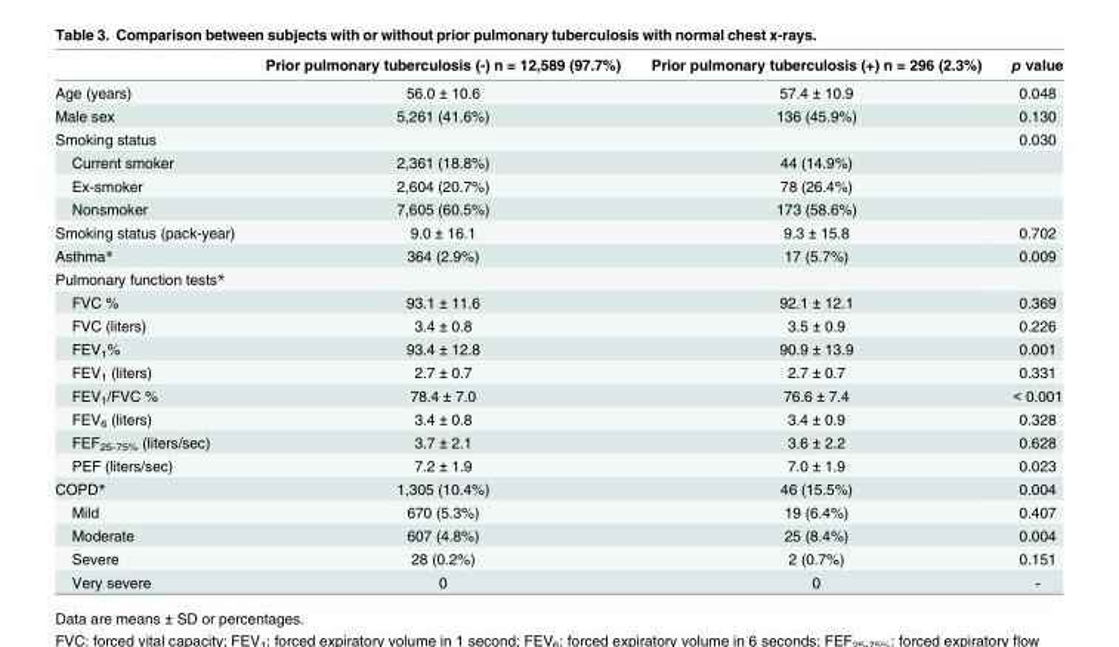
<table><thead><tr><td></td><td>Prior pulmonary tuberculosis (-) n = 12,589 (97.7%)</td><td>Prior pulmonary tuberculosis (+) n = 296 (2.3%)</td><td>p value</td></tr></thead><tbody><tr><td>Age (years)</td><td>56.0 ± 10.6</td><td>57.4 ± 10.9</td><td>0.048</td></tr><tr><td>Male sex</td><td>5,261 (41.6%)</td><td>136 (45.9%)</td><td>0.130</td></tr><tr><td>Smoking status</td><td></td><td></td><td>0.030</td></tr><tr><td>Current smoker</td><td>2,361 (18.8%)</td><td>44 (14.9%)</td><td></td></tr><tr><td>Ex-smoker</td><td>2,604 (20.7%)</td><td>78 (26.4%)</td><td></td></tr><tr><td>Nonsmoker</td><td>7,605 (60.5%)</td><td>173 (58.6%)</td><td></td></tr><tr><td>Smoking status (pack-year)</td><td>9.0 ± 16.1</td><td>9.3 ± 15.8</td><td>0.702</td></tr><tr><td>Asthma*</td><td>364 (2.9%)</td><td>17 (5.7%)</td><td>0.009</td></tr><tr><td colspan="4">Pulmonary function tests*</td></tr><tr><td>FVC %</td><td>93.1 ± 11.6</td><td>92.1 ± 12.1</td><td>0.369</td></tr><tr><td>FVC (liters)</td><td>3.4 ± 0.8</td><td>3.5 ± 0.9</td><td>0.226</td></tr><tr><td>FEV<sub>1</sub>%</td><td>93.4 ± 12.8</td><td>90.9 ± 13.9</td><td>0.001</td></tr><tr><td>FEV<sub>1</sub> (liters)</td><td>2.7 ± 0.7</td><td>2.7 ± 0.7</td><td>0.331</td></tr><tr><td>FEV<sub>1</sub>/FVC %</td><td>78.4 ± 7.0</td><td>76.6 ± 7.4</td><td>&lt; 0.001</td></tr><tr><td>FEV<sub>6</sub> (liters)</td><td>3.4 ± 0.8</td><td>3.4 ± 0.9</td><td>0.328</td></tr><tr><td>FEF<sub>25-75%</sub> (liters/sec)</td><td>3.7 ± 2.1</td><td>3.6 ± 2.2</td><td>0.628</td></tr><tr><td>PEF (liters/sec)</td><td>7.2 ± 1.9</td><td>7.0 ± 1.9</td><td>0.023</td></tr><tr><td>COPD*</td><td>1,305 (10.4%)</td><td>46 (15.5%)</td><td>0.004</td></tr><tr><td>Mild</td><td>670 (5.3%)</td><td>19 (6.4%)</td><td>0.407</td></tr><tr><td>Moderate</td><td>607 (4.8%)</td><td>25 (8.4%)</td><td>0.004</td></tr><tr><td>Severe</td><td>28 (0.2%)</td><td>2 (0.7%)</td><td>0.151</td></tr><tr><td>Very severe</td><td>0</td><td>0</td><td>-</td></tr></tbody></table>